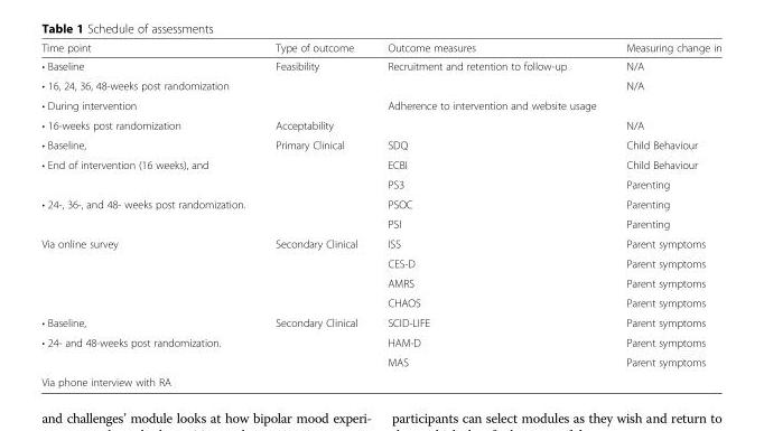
<table><thead><tr><td>Time point</td><td>Type of outcome</td><td>Outcome measures</td><td>Measuring change in</td></tr></thead><tbody><tr><td>• Baseline</td><td>Feasibility</td><td>Recruitment and retention to follow-up</td><td>N/A</td></tr><tr><td>• 16, 24, 36, 48-weeks post randomization</td><td></td><td></td><td>N/A</td></tr><tr><td>• During intervention</td><td></td><td>Adherence to intervention and website usage</td><td></td></tr><tr><td>• 16-weeks post randomization</td><td>Acceptability</td><td></td><td>N/A</td></tr><tr><td>• Baseline,</td><td>Primary Clinical</td><td>SDQ</td><td>Child Behaviour</td></tr><tr><td rowspan="2">• End of intervention (16 weeks), and</td><td rowspan="2"></td><td>ECBI</td><td>Child Behaviour</td></tr><tr><td>PS3</td><td>Parenting</td></tr><tr><td rowspan="2">• 24-, 36-, and 48- weeks post randomization.</td><td rowspan="2"></td><td>PSOC</td><td>Parenting</td></tr><tr><td>PSI</td><td>Parenting</td></tr><tr><td rowspan="4">Via online survey</td><td rowspan="4">Secondary Clinical</td><td>ISS</td><td>Parent symptoms</td></tr><tr><td>CES-D</td><td>Parent symptoms</td></tr><tr><td>AMRS</td><td>Parent symptoms</td></tr><tr><td>CHAOS</td><td>Parent symptoms</td></tr><tr><td>• Baseline,</td><td>Secondary Clinical</td><td>SCID-LIFE</td><td>Parent symptoms</td></tr><tr><td rowspan="2">• 24- and 48-weeks post randomization.</td><td></td><td>HAM-D</td><td>Parent symptoms</td></tr><tr><td></td><td>MAS</td><td>Parent symptoms</td></tr><tr><td>Via phone interview with RA</td><td></td><td></td><td></td></tr></tbody></table>